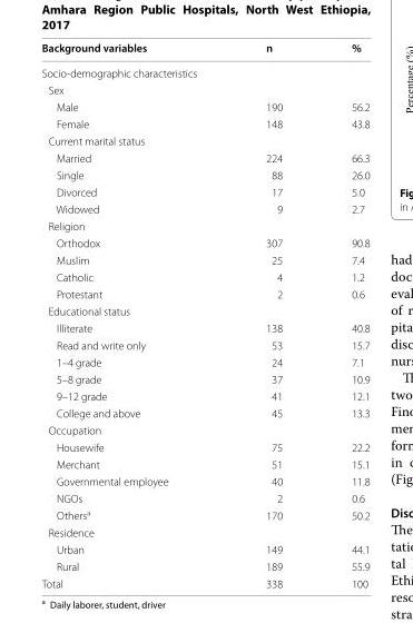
<table><thead><tr><td>Background variables</td><td>n</td><td>%</td></tr></thead><tbody><tr><td colspan="3">Socio-demographic characteristics</td></tr><tr><td colspan="3">Sex</td></tr><tr><td>Male</td><td>190</td><td>56.2</td></tr><tr><td>Female</td><td>148</td><td>43.8</td></tr><tr><td colspan="3">Current marital status</td></tr><tr><td>Married</td><td>224</td><td>66.3</td></tr><tr><td>Single</td><td>88</td><td>26.0</td></tr><tr><td>Divorced</td><td>17</td><td>5.0</td></tr><tr><td>Widowed</td><td>9</td><td>2.7</td></tr><tr><td colspan="3">Religion</td></tr><tr><td>Orthodox</td><td>307</td><td>90.8</td></tr><tr><td>Muslim</td><td>25</td><td>7.4</td></tr><tr><td>Catholic</td><td>4</td><td>1.2</td></tr><tr><td>Protestant</td><td>2</td><td>0.6</td></tr><tr><td colspan="3">Educational status</td></tr><tr><td>Illiterate</td><td>138</td><td>40.8</td></tr><tr><td>Read and write only</td><td>53</td><td>15.7</td></tr><tr><td>1–4 grade</td><td>24</td><td>7.1</td></tr><tr><td>5–8 grade</td><td>37</td><td>10.9</td></tr><tr><td>9–12 grade</td><td>41</td><td>12.1</td></tr><tr><td>College and above</td><td>45</td><td>13.3</td></tr><tr><td colspan="3">Occupation</td></tr><tr><td>Housewife</td><td>75</td><td>22.2</td></tr><tr><td>Merchant</td><td>51</td><td>15.1</td></tr><tr><td>Governmental employee</td><td>40</td><td>11.8</td></tr><tr><td>NGOs</td><td>2</td><td>0.6</td></tr><tr><td>Others<sup>a</sup></td><td>170</td><td>50.2</td></tr><tr><td colspan="3">Residence</td></tr><tr><td>Urban</td><td>149</td><td>44.1</td></tr><tr><td>Rural</td><td>189</td><td>55.9</td></tr><tr><td>Total</td><td>338</td><td>100</td></tr></tbody></table>